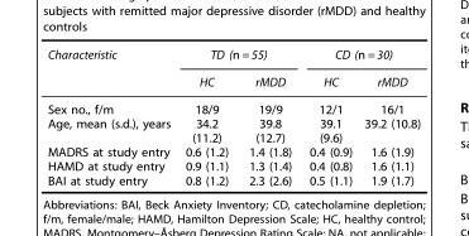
<table><thead><tr><td rowspan="2">Characteristic</td><td colspan="2">TD (n = 55)</td><td colspan="2">CD (n = 30)</td></tr><tr><td>HC</td><td>rMDD</td><td>HC</td><td>rMDD</td></tr></thead><tbody><tr><td>Sex no., f/m</td><td>18/9</td><td>19/9</td><td>12/1</td><td>16/1</td></tr><tr><td>Age, mean (s.d.), years</td><td>34.2 (11.2)</td><td>39.8 (12.7)</td><td>39.1 (9.6)</td><td>39.2 (10.8)</td></tr><tr><td>MADRS at study entry</td><td>0.6 (1.2)</td><td>1.4 (1.8)</td><td>0.4 (0.9)</td><td>1.6 (1.9)</td></tr><tr><td>HAMD at study entry</td><td>0.9 (1.1)</td><td>1.3 (1.4)</td><td>0.4 (0.8)</td><td>1.6 (1.1)</td></tr><tr><td>BAI at study entry</td><td>0.8 (1.2)</td><td>2.3 (2.6)</td><td>0.5 (1.1)</td><td>1.9 (1.7)</td></tr></tbody></table>